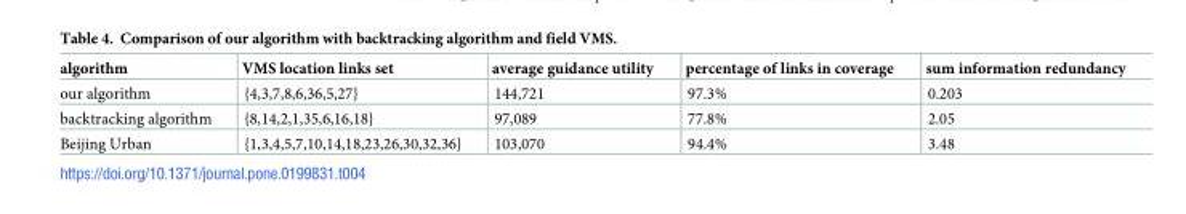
<table><thead><tr><td>algorithm</td><td>VMS location links set</td><td>average guidance utility</td><td>percentage of links in coverage</td><td>sum information redundancy</td></tr></thead><tbody><tr><td>our algorithm</td><td>{4,3,7,8,6,36,5,27}</td><td>144,721</td><td>97.3%</td><td>0.203</td></tr><tr><td>backtracking algorithm</td><td>{8,14,2,1,35,6,16,18}</td><td>97,089</td><td>77.8%</td><td>2.05</td></tr><tr><td>Beijing Urban</td><td>{1,3,4,5,7,10,14,18,23,26,30,32,36}</td><td>103,070</td><td>94.4%</td><td>3.48</td></tr></tbody></table>